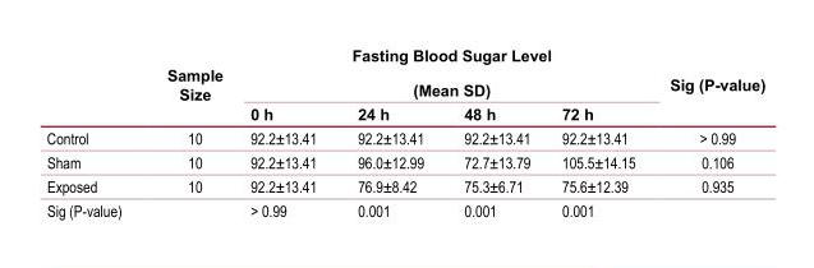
<table><thead><tr><td rowspan="2"></td><td rowspan="2">Sample Size</td><td colspan="4">Fasting Blood Sugar Level (Mean SD)</td><td rowspan="2">Sig (P-value)</td></tr><tr><td>0 h</td><td>24 h</td><td>48 h</td><td>72 h</td></tr></thead><tbody><tr><td>Control</td><td>10</td><td>92.2±13.41</td><td>92.2±13.41</td><td>92.2±13.41</td><td>92.2±13.41</td><td>&gt; 0.99</td></tr><tr><td>Sham</td><td>10</td><td>92.2±13.41</td><td>96.0±12.99</td><td>72.7±13.79</td><td>105.5±14.15</td><td>0.106</td></tr><tr><td>Exposed</td><td>10</td><td>92.2±13.41</td><td>76.9±8.42</td><td>75.3±6.71</td><td>75.6±12.39</td><td>0.935</td></tr><tr><td>Sig (P-value)</td><td></td><td>&gt; 0.99</td><td>0.001</td><td>0.001</td><td>0.001</td><td></td></tr></tbody></table>